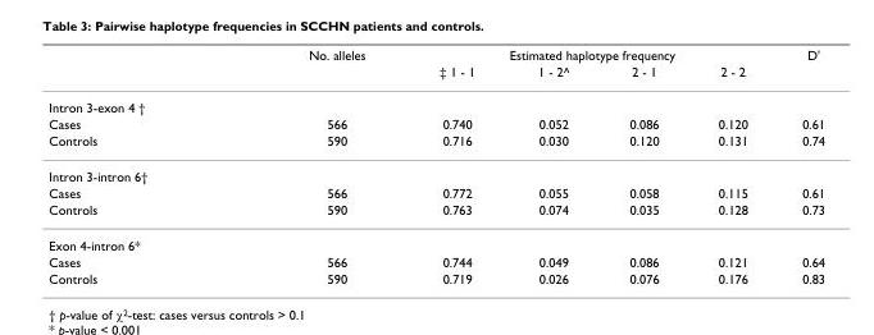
<table><thead><tr><td rowspan="2"></td><td rowspan="2">No. alleles</td><td colspan="4">Estimated haplotype frequency</td><td rowspan="2">D&#x27;</td></tr><tr><td>‡ 1 - 1</td><td>1 - 2^</td><td>2 - 1</td><td>2 - 2</td></tr></thead><tbody><tr><td colspan="7">Intron 3-exon 4 †</td></tr><tr><td>Cases</td><td>566</td><td>0.740</td><td>0.052</td><td>0.086</td><td>0.120</td><td>0.61</td></tr><tr><td>Controls</td><td>590</td><td>0.716</td><td>0.030</td><td>0.120</td><td>0.131</td><td>0.74</td></tr><tr><td colspan="7">Intron 3-intron 6†</td></tr><tr><td>Cases</td><td>566</td><td>0.772</td><td>0.055</td><td>0.058</td><td>0.115</td><td>0.61</td></tr><tr><td>Controls</td><td>590</td><td>0.763</td><td>0.074</td><td>0.035</td><td>0.128</td><td>0.73</td></tr><tr><td colspan="7">Exon 4-intron 6*</td></tr><tr><td>Cases</td><td>566</td><td>0.744</td><td>0.049</td><td>0.086</td><td>0.121</td><td>0.64</td></tr><tr><td>Controls</td><td>590</td><td>0.719</td><td>0.026</td><td>0.076</td><td>0.176</td><td>0.83</td></tr></tbody></table>